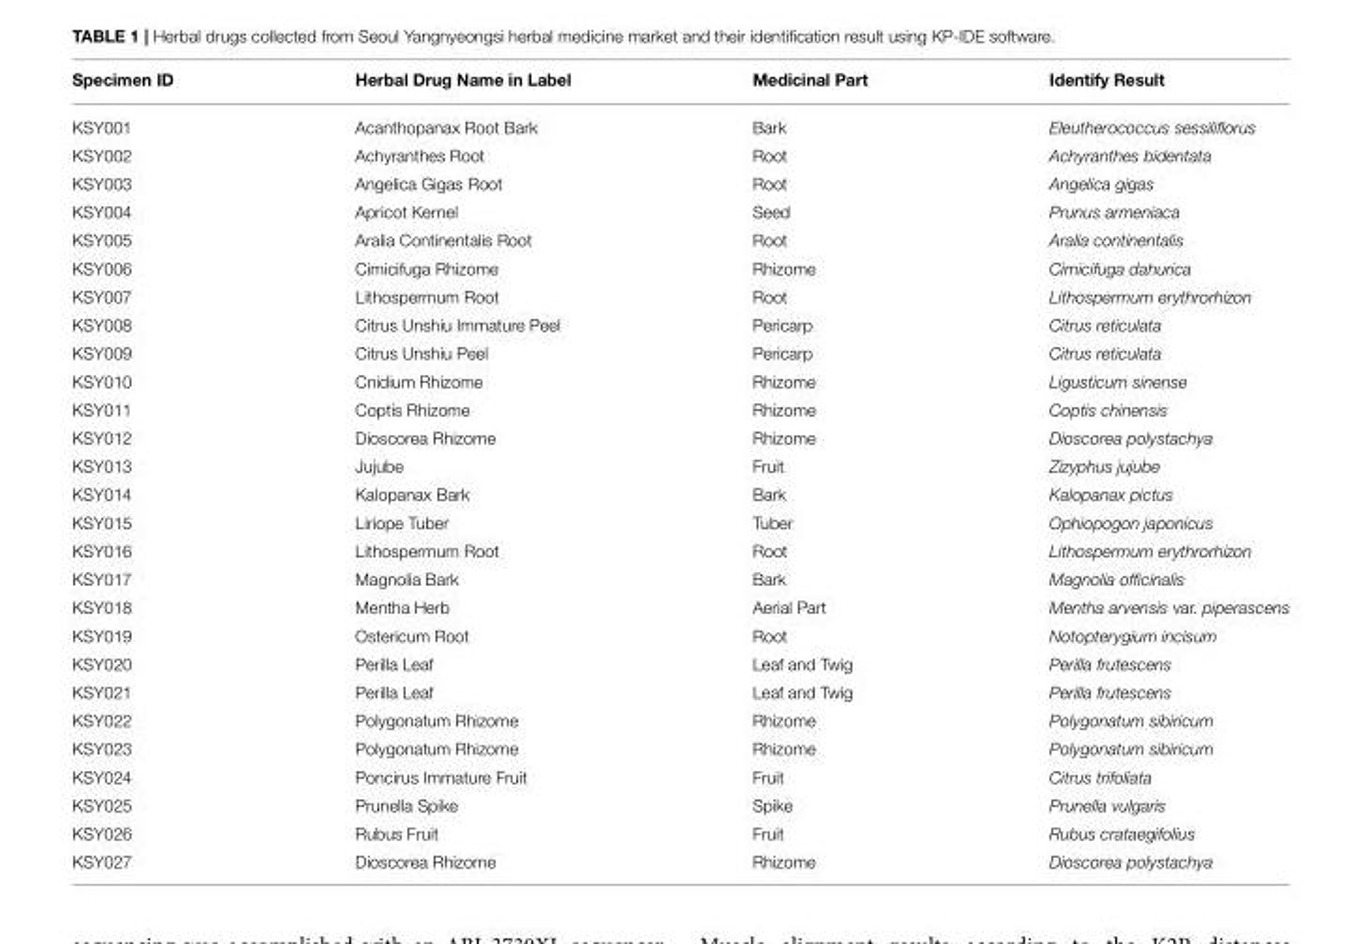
<table><thead><tr><td>Specimen ID</td><td>Herbal Drug Name in Label</td><td>Medicinal Part</td><td>Identify Result</td></tr></thead><tbody><tr><td>KSY001</td><td>Acanthopanax Root Bark</td><td>Bark</td><td>Eleutherococcus sessiliflorus</td></tr><tr><td>KSY002</td><td>Achyranthes Root</td><td>Root</td><td>Achyranthes bidentata</td></tr><tr><td>KSY003</td><td>Angelica Gigas Root</td><td>Root</td><td>Angelica gigas</td></tr><tr><td>KSY004</td><td>Apricot Kernel</td><td>Seed</td><td>Prunus armeniaca</td></tr><tr><td>KSY005</td><td>Aralia Continentalis Root</td><td>Root</td><td>Aralia continentalis</td></tr><tr><td>KSY006</td><td>Cimicifuga Rhizome</td><td>Rhizome</td><td>Cimicifuga dahurica</td></tr><tr><td>KSY007</td><td>Lithospermum Root</td><td>Root</td><td>Lithospermum erythrorhizon</td></tr><tr><td>KSY008</td><td>Citrus Unshiu Immature Peel</td><td>Pericarp</td><td>Citrus reticulata</td></tr><tr><td>KSY009</td><td>Citrus Unshiu Peel</td><td>Pericarp</td><td>Citrus reticulata</td></tr><tr><td>KSY010</td><td>Cnidium Rhizome</td><td>Rhizome</td><td>Ligusticum sinense</td></tr><tr><td>KSY011</td><td>Coptis Rhizome</td><td>Rhizome</td><td>Coptis chinensis</td></tr><tr><td>KSY012</td><td>Dioscorea Rhizome</td><td>Rhizome</td><td>Dioscorea polystachya</td></tr><tr><td>KSY013</td><td>Jujube</td><td>Fruit</td><td>Zizyphus jujube</td></tr><tr><td>KSY014</td><td>Kalopanax Bark</td><td>Bark</td><td>Kalopanax pictus</td></tr><tr><td>KSY015</td><td>Liriope Tuber</td><td>Tuber</td><td>Ophiopogon japonicus</td></tr><tr><td>KSY016</td><td>Lithospermum Root</td><td>Root</td><td>Lithospermum erythrorhizon</td></tr><tr><td>KSY017</td><td>Magnolia Bark</td><td>Bark</td><td>Magnolia officinalis</td></tr><tr><td>KSY018</td><td>Mentha Herb</td><td>Aerial Part</td><td>Mentha arvensis var. piperascens</td></tr><tr><td>KSY019</td><td>Ostericum Root</td><td>Root</td><td>Notopterygium incisum</td></tr><tr><td>KSY020</td><td>Perilla Leaf</td><td>Leaf and Twig</td><td>Perilla frutescens</td></tr><tr><td>KSY021</td><td>Perilla Leaf</td><td>Leaf and Twig</td><td>Perilla frutescens</td></tr><tr><td>KSY022</td><td>Polygonatum Rhizome</td><td>Rhizome</td><td>Polygonatum sibiricum</td></tr><tr><td>KSY023</td><td>Polygonatum Rhizome</td><td>Rhizome</td><td>Polygonatum sibiricum</td></tr><tr><td>KSY024</td><td>Poncirus Immature Fruit</td><td>Fruit</td><td>Citrus trifoliata</td></tr><tr><td>KSY025</td><td>Prunella Spike</td><td>Spike</td><td>Prunella vulgaris</td></tr><tr><td>KSY026</td><td>Rubus Fruit</td><td>Fruit</td><td>Rubus crataegifolius</td></tr><tr><td>KSY027</td><td>Dioscorea Rhizome</td><td>Rhizome</td><td>Dioscorea polystachya</td></tr></tbody></table>